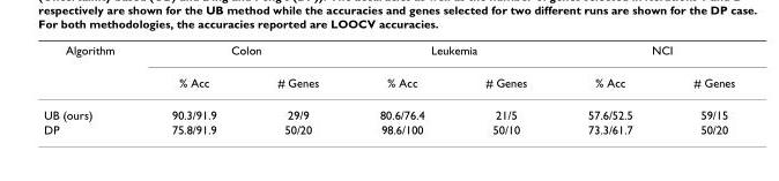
<table><thead><tr><td rowspan="2">Algorithm</td><td colspan="2">Colon</td><td colspan="2">Leukemia</td><td colspan="2">NCI</td></tr><tr><td>% Acc</td><td># Genes</td><td>% Acc</td><td># Genes</td><td>% Acc</td><td># Genes</td></tr></thead><tbody><tr><td>UB (ours)</td><td>90.3/91.9</td><td>29/9</td><td>80.6/76.4</td><td>21/5</td><td>57.6/52.5</td><td>59/15</td></tr><tr><td>DP</td><td>75.8/91.9</td><td>50/20</td><td>98.6/100</td><td>50/10</td><td>73.3/61.7</td><td>50/20</td></tr></tbody></table>